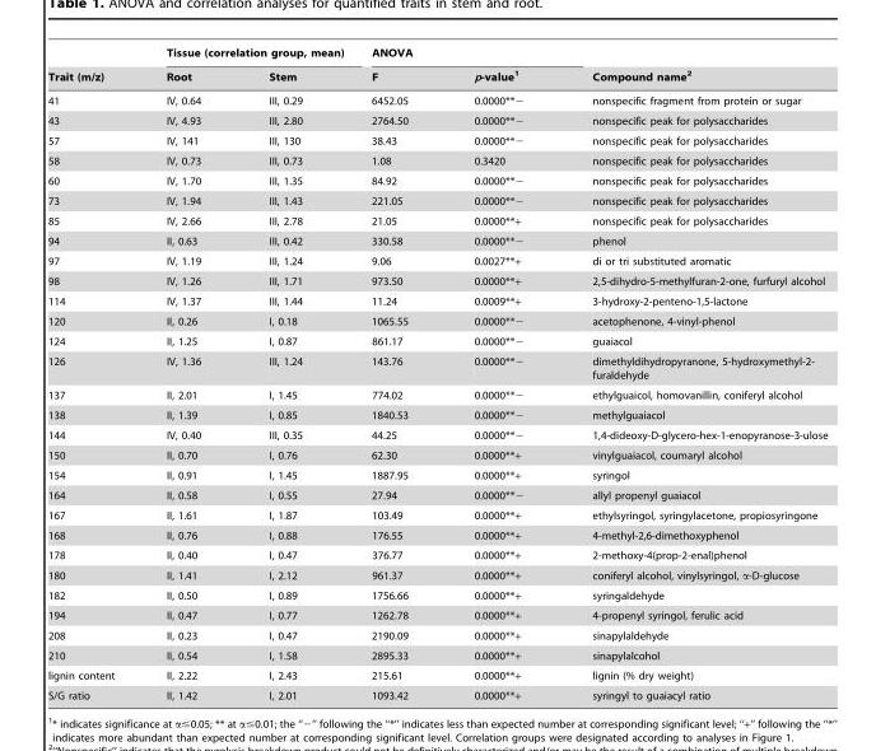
<table><thead><tr><td rowspan="2">Trait (m/z)</td><td colspan="2">Tissue (correlation group, mean)</td><td colspan="2">ANOVA</td><td rowspan="2">Compound name<sup>2</sup></td></tr><tr><td>Root</td><td>Stem</td><td>F</td><td>p-value<sup>1</sup></td></tr></thead><tbody><tr><td>41</td><td>IV, 0.64</td><td>III, 0.29</td><td>6452.05</td><td>0.0000**−</td><td>nonspecific fragment from protein or sugar</td></tr><tr><td>43</td><td>IV, 4.93</td><td>III, 2.80</td><td>2764.50</td><td>0.0000**−</td><td>nonspecific peak for polysaccharides</td></tr><tr><td>57</td><td>IV, 141</td><td>III, 130</td><td>38.43</td><td>0.0000**−</td><td>nonspecific peak for polysaccharides</td></tr><tr><td>58</td><td>IV, 0.73</td><td>III, 0.73</td><td>1.08</td><td>0.3420</td><td>nonspecific peak for polysaccharides</td></tr><tr><td>60</td><td>IV, 1.70</td><td>III, 1.35</td><td>84.92</td><td>0.0000**−</td><td>nonspecific peak for polysaccharides</td></tr><tr><td>73</td><td>IV, 1.94</td><td>III, 1.43</td><td>221.05</td><td>0.0000**−</td><td>nonspecific peak for polysaccharides</td></tr><tr><td>85</td><td>IV, 2.66</td><td>III, 2.78</td><td>21.05</td><td>0.0000**+</td><td>nonspecific peak for polysaccharides</td></tr><tr><td>94</td><td>II, 0.63</td><td>III, 0.42</td><td>330.58</td><td>0.0000**−</td><td>phenol</td></tr><tr><td>97</td><td>IV, 1.19</td><td>III, 1.24</td><td>9.06</td><td>0.0027**+</td><td>di or tri substituted aromatic</td></tr><tr><td>98</td><td>IV, 1.26</td><td>III, 1.71</td><td>973.50</td><td>0.0000**+</td><td>2,5-dihydro-5-methylfuran-2-one, furfuryl alcohol</td></tr><tr><td>114</td><td>IV, 1.37</td><td>III, 1.44</td><td>11.24</td><td>0.0009**+</td><td>3-hydroxy-2-penteno-1,5-lactone</td></tr><tr><td>120</td><td>II, 0.26</td><td>I, 0.18</td><td>1065.55</td><td>0.0000**−</td><td>acetophenone, 4-vinyl-phenol</td></tr><tr><td>124</td><td>II, 1.25</td><td>I, 0.87</td><td>861.17</td><td>0.0000**−</td><td>guaiacol</td></tr><tr><td>126</td><td>IV, 1.36</td><td>III, 1.24</td><td>143.76</td><td>0.0000**−</td><td>dimethyldihydropyranone, 5-hydroxymethyl-2- furaldehyde</td></tr><tr><td>137</td><td>II, 2.01</td><td>I, 1.45</td><td>774.02</td><td>0.0000**−</td><td>ethylguaicol, homovanillin, coniferyl alcohol</td></tr><tr><td>138</td><td>II, 1.39</td><td>I, 0.85</td><td>1840.53</td><td>0.0000**−</td><td>methylguaiacol</td></tr><tr><td>144</td><td>IV, 0.40</td><td>III, 0.35</td><td>44.25</td><td>0.0000**−</td><td>1,4-dideoxy-D-glycero-hex-1-enopyranose-3-ulose</td></tr><tr><td>150</td><td>II, 0.70</td><td>I, 0.76</td><td>62.30</td><td>0.0000**+</td><td>vinylguaiacol, coumaryl alcohol</td></tr><tr><td>154</td><td>II, 0.91</td><td>I, 1.45</td><td>1887.95</td><td>0.0000**+</td><td>syringol</td></tr><tr><td>164</td><td>II, 0.58</td><td>I, 0.55</td><td>27.94</td><td>0.0000**−</td><td>allyl propenyl guaiacol</td></tr><tr><td>167</td><td>II, 1.61</td><td>I, 1.87</td><td>103.49</td><td>0.0000**+</td><td>ethylsyringol, syringylacetone, propiosyringone</td></tr><tr><td>168</td><td>II, 0.76</td><td>I, 0.88</td><td>176.55</td><td>0.0000**+</td><td>4-methyl-2,6-dimethoxyphenol</td></tr><tr><td>178</td><td>II, 0.40</td><td>I, 0.47</td><td>376.77</td><td>0.0000**+</td><td>2-methoxy-4(prop-2-enal)phenol</td></tr><tr><td>180</td><td>II, 1.41</td><td>I, 2.12</td><td>961.37</td><td>0.0000**+</td><td>coniferyl alcohol, vinylsyringol, α-D-glucose</td></tr><tr><td>182</td><td>II, 0.50</td><td>I, 0.89</td><td>1756.66</td><td>0.0000**+</td><td>syringaldehyde</td></tr><tr><td>194</td><td>II, 0.47</td><td>I, 0.77</td><td>1262.78</td><td>0.0000**+</td><td>4-propenyl syringol, ferulic acid</td></tr><tr><td>208</td><td>II, 0.23</td><td>I, 0.47</td><td>2190.09</td><td>0.0000**+</td><td>sinapylaldehyde</td></tr><tr><td>210</td><td>II, 0.54</td><td>I, 1.58</td><td>2895.33</td><td>0.0000**+</td><td>sinapylalcohol</td></tr><tr><td>lignin content</td><td>II, 2.22</td><td>I, 2.43</td><td>215.61</td><td>0.0000**+</td><td>lignin (% dry weight)</td></tr><tr><td>S/G ratio</td><td>II, 1.42</td><td>I, 2.01</td><td>1093.42</td><td>0.0000**+</td><td>syringyl to guaiacyl ratio</td></tr></tbody></table>